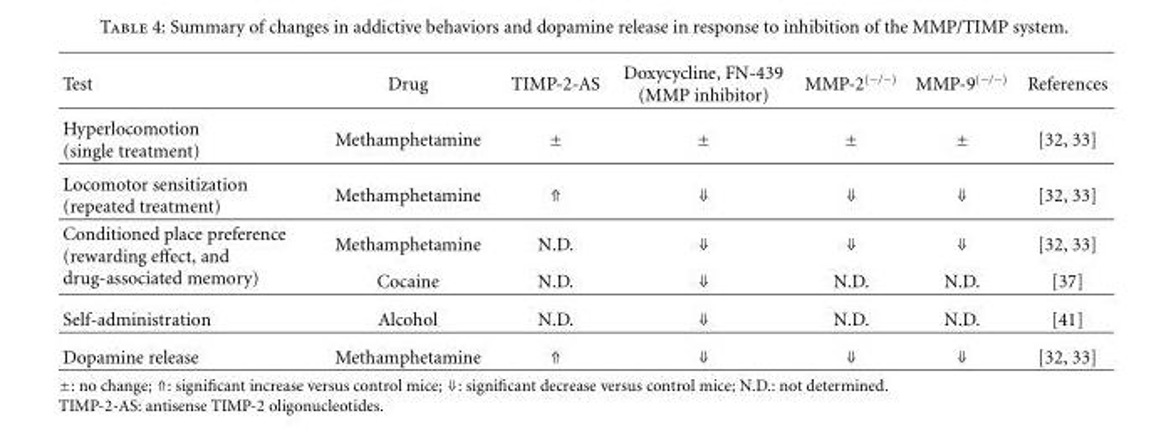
<table><thead><tr><td>Test</td><td>Drug</td><td>TIMP-2-AS</td><td>Doxycycline, FN-439 (MMP inhibitor)</td><td>MMP-2(−/−)</td><td>MMP-9(−/−)</td><td>References</td></tr></thead><tbody><tr><td>Hyperlocomotion (single treatment)</td><td>Methamphetamine</td><td>±</td><td>±</td><td>±</td><td>±</td><td>[32, 33]</td></tr><tr><td>Locomotor sensitization (repeated treatment)</td><td>Methamphetamine</td><td>⇑</td><td>⇓</td><td>⇓</td><td>⇓</td><td>[32, 33]</td></tr><tr><td rowspan="2">Conditioned place preference (rewarding effect, and drug-associated memory)</td><td>Methamphetamine</td><td>N.D.</td><td>⇓</td><td>⇓</td><td>⇓</td><td>[32, 33]</td></tr><tr><td>Cocaine</td><td>N.D.</td><td>⇓</td><td>N.D.</td><td>N.D.</td><td>[37]</td></tr><tr><td>Self-administration</td><td>Alcohol</td><td>N.D.</td><td>⇓</td><td>N.D.</td><td>N.D.</td><td>[41]</td></tr><tr><td>Dopamine release</td><td>Methamphetamine</td><td>⇑</td><td>⇓</td><td>⇓</td><td>⇓</td><td>[32, 33]</td></tr></tbody></table>